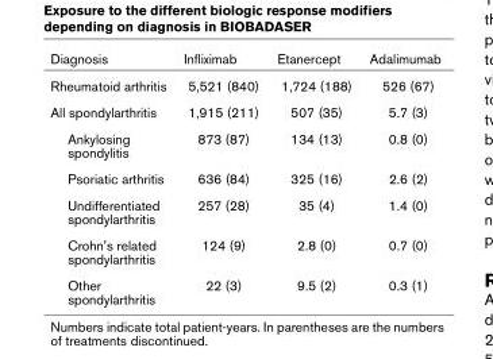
<table><thead><tr><td>Diagnosis</td><td>Infliximab</td><td>Etanercept</td><td>Adalimumab</td></tr></thead><tbody><tr><td>Rheumatoid arthritis</td><td>5,521 (840)</td><td>1,724 (188)</td><td>526 (67)</td></tr><tr><td>All spondylarthritis</td><td>1,915 (211)</td><td>507 (35)</td><td>5.7 (3)</td></tr><tr><td>Ankylosing spondylitis</td><td>873 (87)</td><td>134 (13)</td><td>0.8 (0)</td></tr><tr><td>Psoriatic arthritis</td><td>636 (84)</td><td>325 (16)</td><td>2.6 (2)</td></tr><tr><td>Undifferentiated spondylarthritis</td><td>257 (28)</td><td>35 (4)</td><td>1.4 (0)</td></tr><tr><td>Crohn&#x27;s related spondylarthritis</td><td>124 (9)</td><td>2.8 (0)</td><td>0.7 (0)</td></tr><tr><td>Other spondylarthritis</td><td>22 (3)</td><td>9.5 (2)</td><td>0.3 (1)</td></tr></tbody></table>